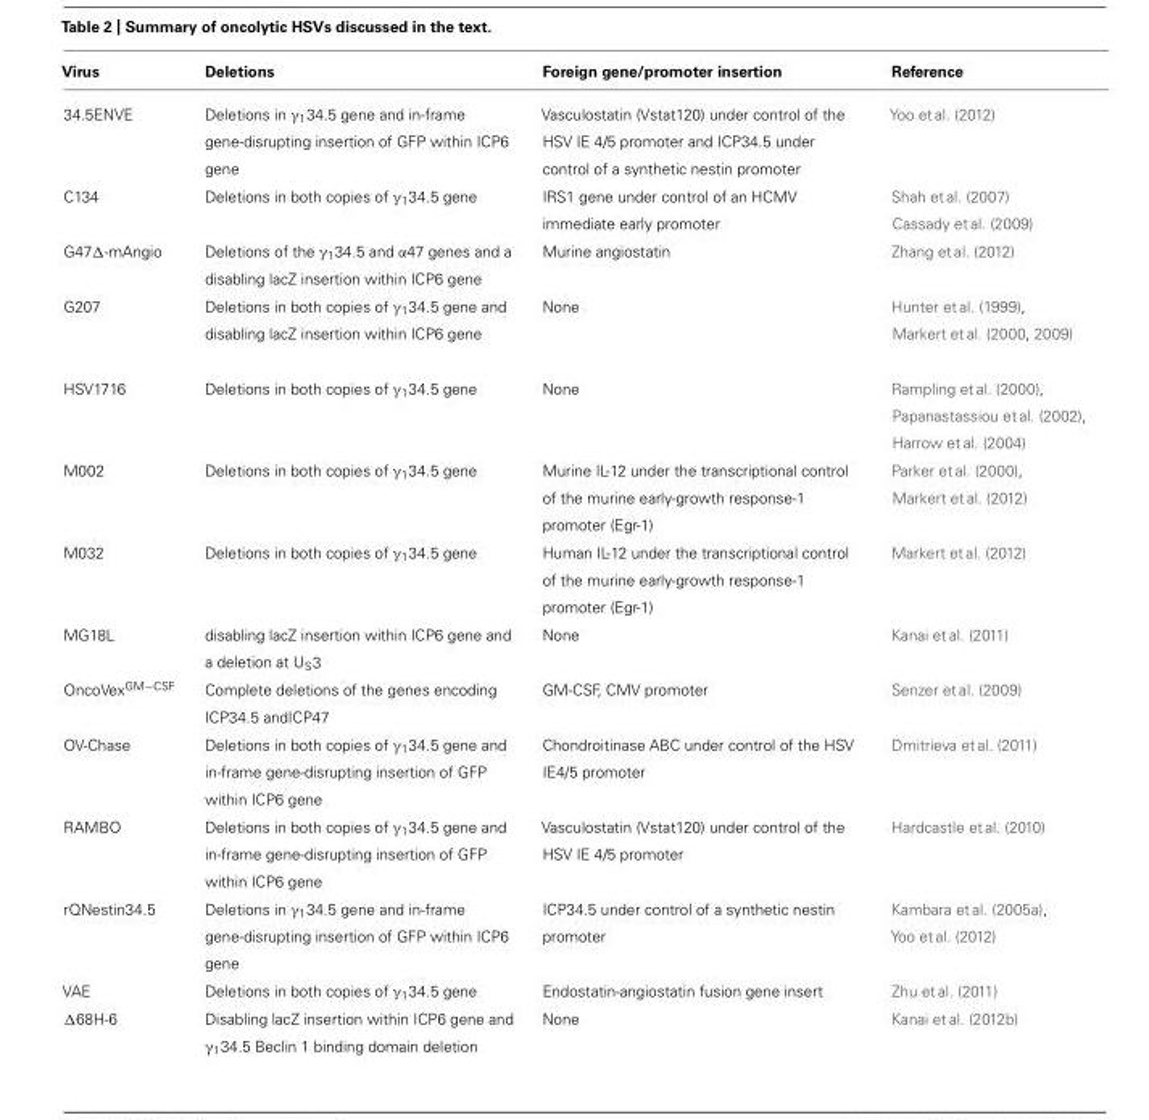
<table><thead><tr><td>Virus</td><td>Deletions</td><td>Foreign gene/promoter insertion</td><td>Reference</td></tr></thead><tbody><tr><td>34.5ENVE</td><td>Deletions in γ<sub>1</sub>34.5 gene and in-frame gene-disrupting insertion of GFP within ICP6 gene</td><td>Vasculostatin (Vstat120) under control of the HSV IE 4/5 promoter and ICP34.5 under control of a synthetic nestin promoter</td><td>Yoo et al. (2012)</td></tr><tr><td>C134</td><td>Deletions in both copies of γ<sub>1</sub>34.5 gene</td><td>IRS1 gene under control of an HCMV immediate early promoter</td><td>Shah et al. (2007) Cassady et al. (2009)</td></tr><tr><td>G47Δ-mAngio</td><td>Deletions of the γ<sub>1</sub>34.5 and α47 genes and a disabling lacZ insertion within ICP6 gene</td><td>Murine angiostatin</td><td>Zhang et al. (2012)</td></tr><tr><td>G207</td><td>Deletions in both copies of γ<sub>1</sub>34.5 gene and disabling lacZ insertion within ICP6 gene</td><td>None</td><td>Hunter et al. (1999), Markert et al. (2000, 2009)</td></tr><tr><td>HSV1716</td><td>Deletions in both copies of γ<sub>1</sub>34.5 gene</td><td>None</td><td>Rampling et al. (2000), Papanastassiou et al. (2002), Harrow et al. (2004)</td></tr><tr><td>M002</td><td>Deletions in both copies of γ<sub>1</sub>34.5 gene</td><td>Murine IL-12 under the transcriptional control of the murine early-growth response-1 promoter (Egr-1)</td><td>Parker et al. (2000), Markert et al. (2012)</td></tr><tr><td>M032</td><td>Deletions in both copies of γ<sub>1</sub>34.5 gene</td><td>Human IL-12 under the transcriptional control of the murine early-growth response-1 promoter (Egr-1)</td><td>Markert et al. (2012)</td></tr><tr><td>MG18L</td><td>disabling lacZ insertion within ICP6 gene and a deletion at U<sub>S</sub>3</td><td>None</td><td>Kanai et al. (2011)</td></tr><tr><td>OncoVex<sup>GM−CSF</sup></td><td>Complete deletions of the genes encoding ICP34.5 andICP47</td><td>GM-CSF, CMV promoter</td><td>Senzer et al. (2009)</td></tr><tr><td>OV-Chase</td><td>Deletions in both copies of γ<sub>1</sub>34.5 gene and in-frame gene-disrupting insertion of GFP within ICP6 gene</td><td>Chondroitinase ABC under control of the HSV IE4/5 promoter</td><td>Dmitrieva et al. (2011)</td></tr><tr><td>RAMBO</td><td>Deletions in both copies of γ<sub>1</sub>34.5 gene and in-frame gene-disrupting insertion of GFP within ICP6 gene</td><td>Vasculostatin (Vstat120) under control of the HSV IE 4/5 promoter</td><td>Hardcastle et al. (2010)</td></tr><tr><td>rQNestin34.5</td><td>Deletions in γ<sub>1</sub>34.5 gene and in-frame gene-disrupting insertion of GFP within ICP6 gene</td><td>ICP34.5 under control of a synthetic nestin promoter</td><td>Kambara et al. (2005a), Yoo et al. (2012)</td></tr><tr><td>VAE</td><td>Deletions in both copies of γ<sub>1</sub>34.5 gene</td><td>Endostatin-angiostatin fusion gene insert</td><td>Zhu et al. (2011)</td></tr><tr><td>Δ68H-6</td><td>Disabling lacZ insertion within ICP6 gene and γ<sub>1</sub>34.5 Beclin 1 binding domain deletion</td><td>None</td><td>Kanai et al. (2012b)</td></tr></tbody></table>